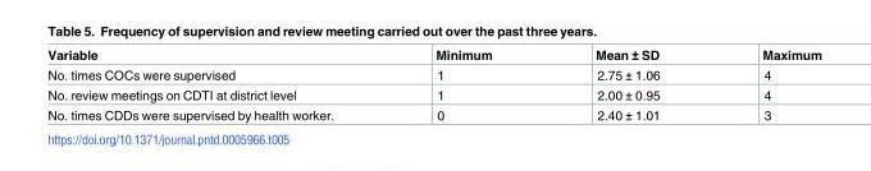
<table><thead><tr><td>Variable</td><td>Minimum</td><td>Mean ± SD</td><td>Maximum</td></tr></thead><tbody><tr><td>No. times COCs were supervised</td><td>1</td><td>2.75 ± 1.06</td><td>4</td></tr><tr><td>No. review meetings on CDTI at district level</td><td>1</td><td>2.00 ± 0.95</td><td>4</td></tr><tr><td>No. times CDDs were supervised by health worker.</td><td>0</td><td>2.40 ± 1.01</td><td>3</td></tr></tbody></table>